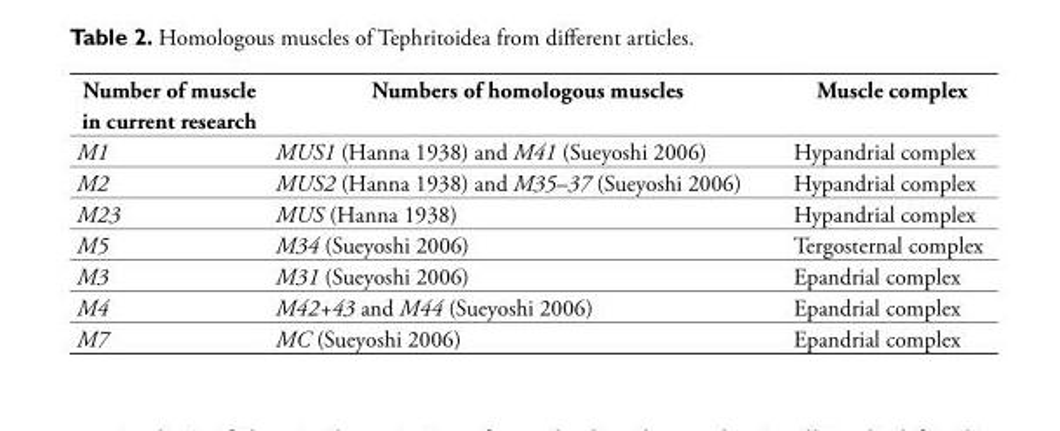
<table><thead><tr><td>Number of muscle in current research</td><td>Numbers of homologous muscles</td><td>Muscle complex</td></tr></thead><tbody><tr><td>M1</td><td>MUS1 (Hanna 1938) and M41 (Sueyoshi 2006)</td><td>Hypandrial complex</td></tr><tr><td>M2</td><td>MUS2 (Hanna 1938) and M35–37 (Sueyoshi 2006)</td><td>Hypandrial complex</td></tr><tr><td>M23</td><td>MUS (Hanna 1938)</td><td>Hypandrial complex</td></tr><tr><td>M5</td><td>M34 (Sueyoshi 2006)</td><td>Tergosternal complex</td></tr><tr><td>M3</td><td>M31 (Sueyoshi 2006)</td><td>Epandrial complex</td></tr><tr><td>M4</td><td>M42+43 and M44 (Sueyoshi 2006)</td><td>Epandrial complex</td></tr><tr><td>M7</td><td>MC (Sueyoshi 2006)</td><td>Epandrial complex</td></tr></tbody></table>